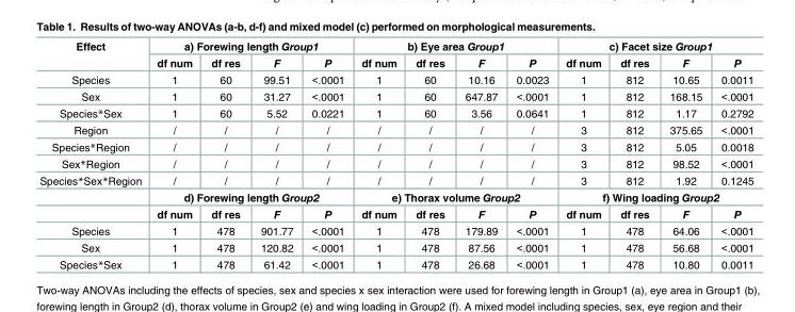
<table><tbody><tr><td rowspan="2">Effect</td><td colspan="4">a) Forewing length Group1</td><td colspan="4">b) Eye area Group1</td><td colspan="4">c) Facet size Group1</td></tr><tr><td>df num</td><td>df res</td><td>F</td><td>P</td><td>df num</td><td>df res</td><td>F</td><td>P</td><td>df num</td><td>df res</td><td>F</td><td>P</td></tr><tr><td>Species</td><td>1</td><td>60</td><td>99.51</td><td>&lt;.0001</td><td>1</td><td>60</td><td>10.16</td><td>0.0023</td><td>1</td><td>812</td><td>10.65</td><td>0.0011</td></tr><tr><td>Sex</td><td>1</td><td>60</td><td>31.27</td><td>&lt;.0001</td><td>1</td><td>60</td><td>647.87</td><td>&lt;.0001</td><td>1</td><td>812</td><td>168.15</td><td>&lt;.0001</td></tr><tr><td>Species*Sex</td><td>1</td><td>60</td><td>5.52</td><td>0.0221</td><td>1</td><td>60</td><td>3.56</td><td>0.0641</td><td>1</td><td>812</td><td>1.17</td><td>0.2792</td></tr><tr><td>Region</td><td>/</td><td>/</td><td>/</td><td>/</td><td>/</td><td>/</td><td>/</td><td>/</td><td>3</td><td>812</td><td>375.65</td><td>&lt;.0001</td></tr><tr><td>Species*Region</td><td>/</td><td>/</td><td>/</td><td>/</td><td>/</td><td>/</td><td>/</td><td>/</td><td>3</td><td>812</td><td>5.05</td><td>0.0018</td></tr><tr><td>Sex*Region</td><td>/</td><td>/</td><td>/</td><td>/</td><td>/</td><td>/</td><td>/</td><td>/</td><td>3</td><td>812</td><td>98.52</td><td>&lt;.0001</td></tr><tr><td rowspan="3">Species*Sex*Region</td><td>/</td><td>/</td><td>/</td><td>/</td><td>/</td><td>/</td><td>/</td><td>/</td><td>3</td><td>812</td><td>1.92</td><td>0.1245</td></tr><tr><td colspan="4">d) Forewing length Group2</td><td colspan="4">e) Thorax volume Group2</td><td colspan="4">f) Wing loading Group2</td></tr><tr><td>df num</td><td>df res</td><td>F</td><td>P</td><td>df num</td><td>df res</td><td>F</td><td>P</td><td>df num</td><td>df res</td><td>F</td><td>P</td></tr><tr><td>Species</td><td>1</td><td>478</td><td>901.77</td><td>&lt;.0001</td><td>1</td><td>478</td><td>179.89</td><td>&lt;.0001</td><td>1</td><td>478</td><td>64.06</td><td>&lt;.0001</td></tr><tr><td>Sex</td><td>1</td><td>478</td><td>120.82</td><td>&lt;.0001</td><td>1</td><td>478</td><td>87.56</td><td>&lt;.0001</td><td>1</td><td>478</td><td>56.68</td><td>&lt;.0001</td></tr><tr><td>Species*Sex</td><td>1</td><td>478</td><td>61.42</td><td>&lt;.0001</td><td>1</td><td>478</td><td>26.68</td><td>&lt;.0001</td><td>1</td><td>478</td><td>10.80</td><td>0.0011</td></tr></tbody></table>